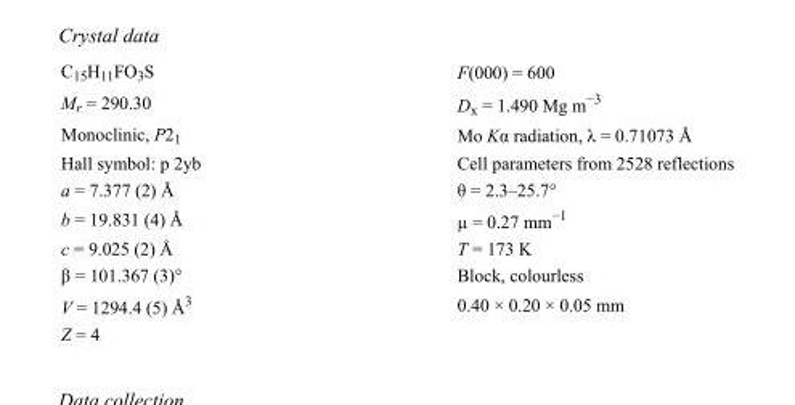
<table><tbody><tr><td>C<sub>15</sub>H<sub>11</sub>FO<sub>3</sub>S</td><td>F(000) = 600</td></tr><tr><td>M<sub>r</sub> = 290.30</td><td>D<sub>x</sub> = 1.490 Mg m<sup>−3</sup></td></tr><tr><td>Monoclinic, P2<sub>1</sub></td><td>Mo Kα radiation, λ = 0.71073 Å</td></tr><tr><td>Hall symbol: p 2yb</td><td>Cell parameters from 2528 reflections</td></tr><tr><td>a = 7.377 (2) Å</td><td>θ = 2.3–25.7°</td></tr><tr><td>b = 19.831 (4) Å</td><td>µ = 0.27 mm<sup>−1</sup></td></tr><tr><td>c = 9.025 (2) Å</td><td>T = 173 K</td></tr><tr><td>β = 101.367 (3)°</td><td>Block, colourless</td></tr><tr><td>V = 1294.4 (5) Å<sup>3</sup></td><td>0.40 × 0.20 × 0.05 mm</td></tr><tr><td>Z = 4</td><td></td></tr></tbody></table>